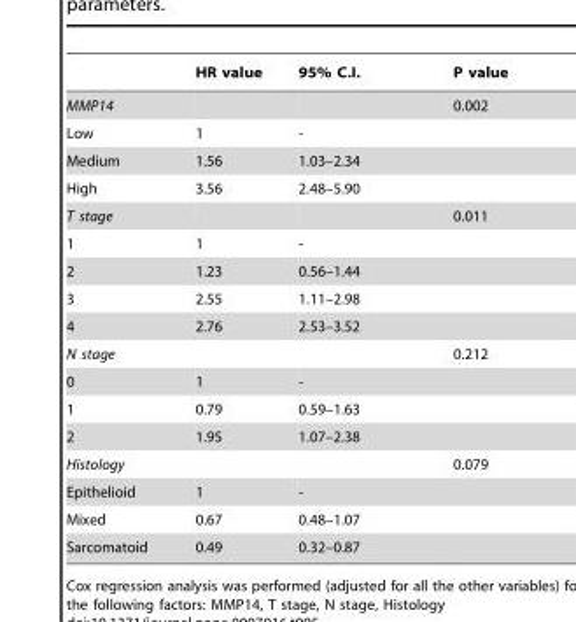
<table><thead><tr><td></td><td>HR value</td><td>95% C.I.</td><td>P value</td></tr></thead><tbody><tr><td>MMP14</td><td></td><td></td><td>0.002</td></tr><tr><td>Low</td><td>1</td><td>-</td><td></td></tr><tr><td>Medium</td><td>1.56</td><td>1.03–2.34</td><td></td></tr><tr><td>High</td><td>3.56</td><td>2.48–5.90</td><td></td></tr><tr><td>T stage</td><td></td><td></td><td>0.011</td></tr><tr><td>1</td><td>1</td><td>-</td><td></td></tr><tr><td>2</td><td>1.23</td><td>0.56–1.44</td><td></td></tr><tr><td>3</td><td>2.55</td><td>1.11–2.98</td><td></td></tr><tr><td>4</td><td>2.76</td><td>2.53–3.52</td><td></td></tr><tr><td>N stage</td><td></td><td></td><td>0.212</td></tr><tr><td>0</td><td>1</td><td>-</td><td></td></tr><tr><td>1</td><td>0.79</td><td>0.59–1.63</td><td></td></tr><tr><td>2</td><td>1.95</td><td>1.07–2.38</td><td></td></tr><tr><td>Histology</td><td></td><td></td><td>0.079</td></tr><tr><td>Epithelioid</td><td>1</td><td>-</td><td></td></tr><tr><td>Mixed</td><td>0.67</td><td>0.48–1.07</td><td></td></tr><tr><td>Sarcomatoid</td><td>0.49</td><td>0.32–0.87</td><td></td></tr></tbody></table>